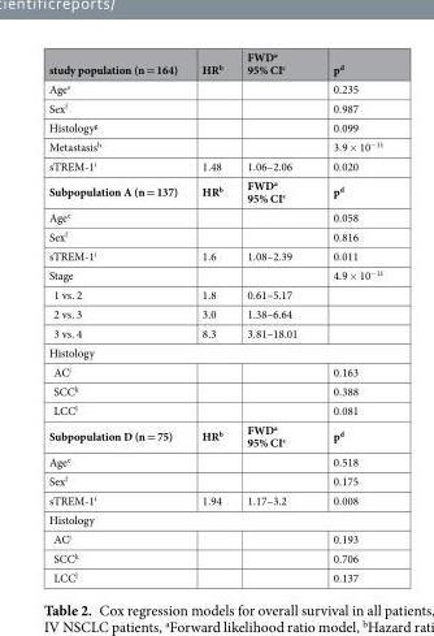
<table><thead><tr><td>study population (n = 164)</td><td>HR<sup>b</sup></td><td>FWD<sup>a</sup> 95% CI<sup>c</sup></td><td>p<sup>d</sup></td></tr></thead><tbody><tr><td>Age<sup>e</sup></td><td></td><td></td><td>0.235</td></tr><tr><td>Sex<sup>f</sup></td><td></td><td></td><td>0.987</td></tr><tr><td>Histology<sup>g</sup></td><td></td><td></td><td>0.099</td></tr><tr><td>Metastasis<sup>h</sup></td><td></td><td></td><td>3.9 × 10<sup>−11</sup></td></tr><tr><td>sTREM-1<sup>i</sup></td><td>1.48</td><td>1.06–2.06</td><td>0.020</td></tr><tr><td>Subpopulation A (n = 137)</td><td>HR<sup>b</sup></td><td>FWD<sup>a</sup> 95% CI<sup>c</sup></td><td>p<sup>d</sup></td></tr><tr><td>Age<sup>e</sup></td><td></td><td></td><td>0.058</td></tr><tr><td>Sex<sup>f</sup></td><td></td><td></td><td>0.816</td></tr><tr><td>sTREM-1<sup>i</sup></td><td>1.6</td><td>1.08–2.39</td><td>0.011</td></tr><tr><td>Stage</td><td></td><td></td><td>4.9 × 10<sup>−11</sup></td></tr><tr><td>1 vs. 2</td><td>1.8</td><td>0.61–5.17</td><td></td></tr><tr><td>2 vs. 3</td><td>3.0</td><td>1.38–6.64</td><td></td></tr><tr><td>3 vs. 4</td><td>8.3</td><td>3.81–18.01</td><td></td></tr><tr><td colspan="4">Histology</td></tr><tr><td>AC<sup>j</sup></td><td></td><td></td><td>0.163</td></tr><tr><td>SCC<sup>k</sup></td><td></td><td></td><td>0.388</td></tr><tr><td>LCC<sup>l</sup></td><td></td><td></td><td>0.081</td></tr><tr><td>Subpopulation D (n = 75)</td><td>HR<sup>b</sup></td><td>FWD<sup>a</sup> 95% CI<sup>c</sup></td><td>p<sup>d</sup></td></tr><tr><td>Age<sup>e</sup></td><td></td><td></td><td>0.518</td></tr><tr><td>Sex<sup>f</sup></td><td></td><td></td><td>0.175</td></tr><tr><td>sTREM-1<sup>i</sup></td><td>1.94</td><td>1.17–3.2</td><td>0.008</td></tr><tr><td colspan="4">Histology</td></tr><tr><td>AC<sup>j</sup></td><td></td><td></td><td>0.193</td></tr><tr><td>SCC<sup>k</sup></td><td></td><td></td><td>0.706</td></tr><tr><td>LCC<sup>l</sup></td><td></td><td></td><td>0.137</td></tr></tbody></table>